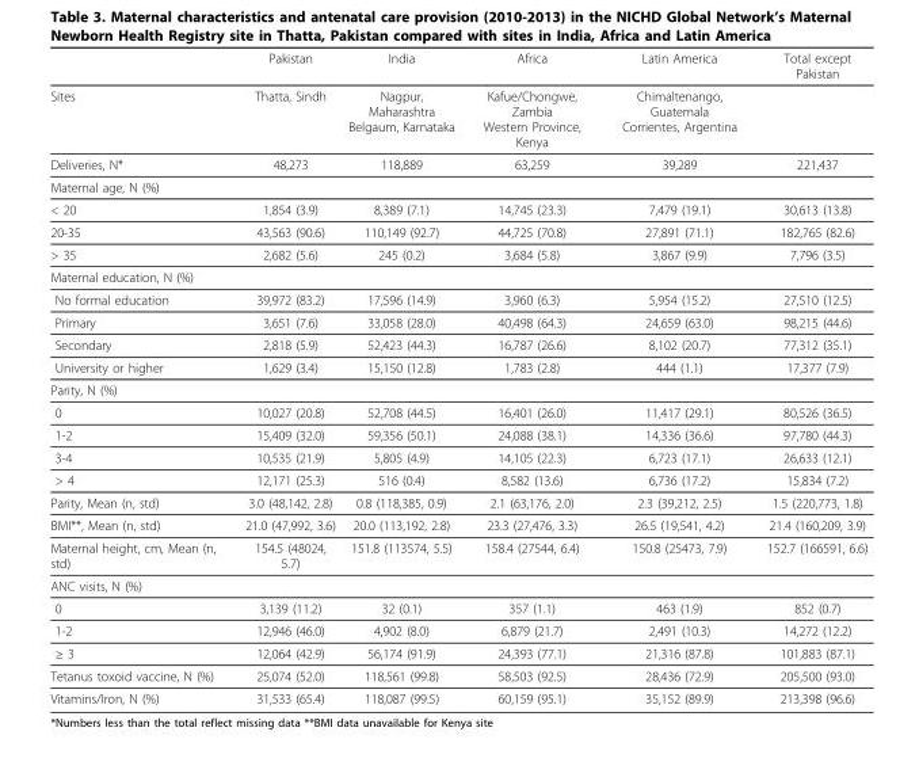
<table><thead><tr><td></td><td>Pakistan</td><td>India</td><td>Africa</td><td>Latin America</td><td>Total except Pakistan</td></tr></thead><tbody><tr><td>Sites</td><td>Thatta, Sindh</td><td>Nagpur, Maharashtra Belgaum, Karnataka</td><td>Kafue/Chongwe, Zambia Western Province, Kenya</td><td>Chimaltenango, Guatemala Corrientes, Argentina</td><td></td></tr><tr><td>Deliveries, N*</td><td>48,273</td><td>118,889</td><td>63,259</td><td>39,289</td><td>221,437</td></tr><tr><td colspan="6">Maternal age, N (%)</td></tr><tr><td>&lt; 20</td><td>1,854 (3.9)</td><td>8,389 (7.1)</td><td>14,745 (23.3)</td><td>7,479 (19.1)</td><td>30,613 (13.8)</td></tr><tr><td>20-35</td><td>43,563 (90.6)</td><td>110,149 (92.7)</td><td>44,725 (70.8)</td><td>27,891 (71.1)</td><td>182,765 (82.6)</td></tr><tr><td>&gt; 35</td><td>2,682 (5.6)</td><td>245 (0.2)</td><td>3,684 (5.8)</td><td>3,867 (9.9)</td><td>7,796 (3.5)</td></tr><tr><td colspan="6">Maternal education, N (%)</td></tr><tr><td>No formal education</td><td>39,972 (83.2)</td><td>17,596 (14.9)</td><td>3,960 (6.3)</td><td>5,954 (15.2)</td><td>27,510 (12.5)</td></tr><tr><td>Primary</td><td>3,651 (7.6)</td><td>33,058 (28.0)</td><td>40,498 (64.3)</td><td>24,659 (63.0)</td><td>98,215 (44.6)</td></tr><tr><td>Secondary</td><td>2,818 (5.9)</td><td>52,423 (44.3)</td><td>16,787 (26.6)</td><td>8,102 (20.7)</td><td>77,312 (35.1)</td></tr><tr><td>University or higher</td><td>1,629 (3.4)</td><td>15,150 (12.8)</td><td>1,783 (2.8)</td><td>444 (1.1)</td><td>17,377 (7.9)</td></tr><tr><td colspan="6">Parity, N (%)</td></tr><tr><td>0</td><td>10,027 (20.8)</td><td>52,708 (44.5)</td><td>16,401 (26.0)</td><td>11,417 (29.1)</td><td>80,526 (36.5)</td></tr><tr><td>1-2</td><td>15,409 (32.0)</td><td>59,356 (50.1)</td><td>24,088 (38.1)</td><td>14,336 (36.6)</td><td>97,780 (44.3)</td></tr><tr><td>3-4</td><td>10,535 (21.9)</td><td>5,805 (4.9)</td><td>14,105 (22.3)</td><td>6,723 (17.1)</td><td>26,633 (12.1)</td></tr><tr><td>&gt; 4</td><td>12,171 (25.3)</td><td>516 (0.4)</td><td>8,582 (13.6)</td><td>6,736 (17.2)</td><td>15,834 (7.2)</td></tr><tr><td>Parity, Mean (n, std)</td><td>3.0 (48,142, 2.8)</td><td>0.8 (118,385, 0.9)</td><td>2.1 (63,176, 2.0)</td><td>2.3 (39,212, 2.5)</td><td>1.5 (220,773, 1.8)</td></tr><tr><td>BMI**, Mean (n, std)</td><td>21.0 (47,992, 3.6)</td><td>20.0 (113,192, 2.8)</td><td>23.3 (27,476, 3.3)</td><td>26.5 (19,541, 4.2)</td><td>21.4 (160,209, 3.9)</td></tr><tr><td>Maternal height, cm, Mean (n, std)</td><td>154.5 (48024, 5.7)</td><td>151.8 (113574, 5.5)</td><td>158.4 (27544, 6.4)</td><td>150.8 (25473, 7.9)</td><td>152.7 (166591, 6.6)</td></tr><tr><td colspan="6">ANC visits, N (%)</td></tr><tr><td>0</td><td>3,139 (11.2)</td><td>32 (0.1)</td><td>357 (1.1)</td><td>463 (1.9)</td><td>852 (0.7)</td></tr><tr><td>1-2</td><td>12,946 (46.0)</td><td>4,902 (8.0)</td><td>6,879 (21.7)</td><td>2,491 (10.3)</td><td>14,272 (12.2)</td></tr><tr><td>≥ 3</td><td>12,064 (42.9)</td><td>56,174 (91.9)</td><td>24,393 (77.1)</td><td>21,316 (87.8)</td><td>101,883 (87.1)</td></tr><tr><td>Tetanus toxoid vaccine, N (%)</td><td>25,074 (52.0)</td><td>118,561 (99.8)</td><td>58,503 (92.5)</td><td>28,436 (72.9)</td><td>205,500 (93.0)</td></tr><tr><td>Vitamins/Iron, N (%)</td><td>31,533 (65.4)</td><td>118,087 (99.5)</td><td>60,159 (95.1)</td><td>35,152 (89.9)</td><td>213,398 (96.6)</td></tr></tbody></table>